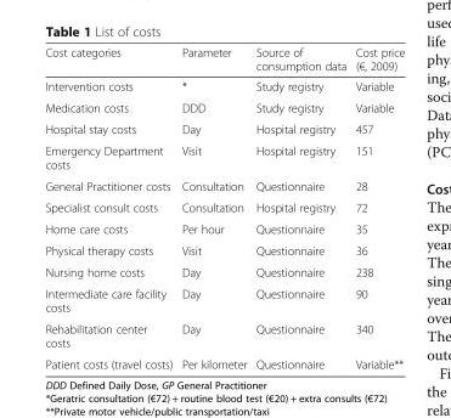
<table><thead><tr><td>Cost categories</td><td>Parameter</td><td>Source of consumption data</td><td>Cost price (€, 2009)</td></tr></thead><tbody><tr><td>Intervention costs</td><td>*</td><td>Study registry</td><td>Variable</td></tr><tr><td>Medication costs</td><td>DDD</td><td>Study registry</td><td>Variable</td></tr><tr><td>Hospital stay costs</td><td>Day</td><td>Hospital registry</td><td>457</td></tr><tr><td>Emergency Department costs</td><td>Visit</td><td>Hospital registry</td><td>151</td></tr><tr><td>General Practitioner costs</td><td>Consultation</td><td>Questionnaire</td><td>28</td></tr><tr><td>Specialist consult costs</td><td>Consultation</td><td>Hospital registry</td><td>72</td></tr><tr><td>Home care costs</td><td>Per hour</td><td>Questionnaire</td><td>35</td></tr><tr><td>Physical therapy costs</td><td>Visit</td><td>Questionnaire</td><td>36</td></tr><tr><td>Nursing home costs</td><td>Day</td><td>Questionnaire</td><td>238</td></tr><tr><td>Intermediate care facility costs</td><td>Day</td><td>Questionnaire</td><td>90</td></tr><tr><td>Rehabilitation center costs</td><td>Day</td><td>Questionnaire</td><td>340</td></tr><tr><td>Patient costs (travel costs)</td><td>Per kilometer</td><td>Questionnaire</td><td>Variable**</td></tr></tbody></table>